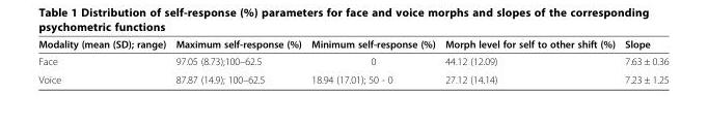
<table><thead><tr><td>Modality (mean (SD); range)</td><td>Maximum self-response (%)</td><td>Minimum self-response (%)</td><td>Morph level for self to other shift (%)</td><td>Slope</td></tr></thead><tbody><tr><td>Face</td><td>97.05 (8.73);100–62.5</td><td>0</td><td>44.12 (12.09)</td><td>7.63 ± 0.36</td></tr><tr><td>Voice</td><td>87.87 (14.9); 100–62.5</td><td>18.94 (17.01); 50 - 0</td><td>27.12 (14.14)</td><td>7.23 ± 1.25</td></tr></tbody></table>